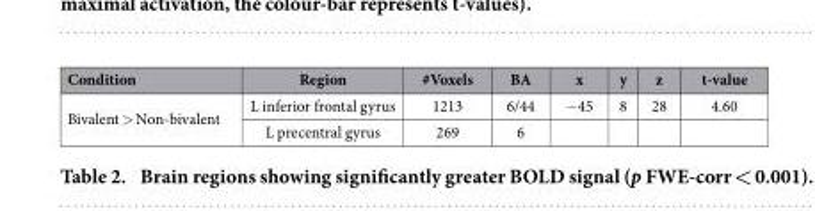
<table><thead><tr><td>Condition</td><td>Region</td><td>#Voxels</td><td>BA</td><td>x</td><td>y</td><td>z</td><td>t-value</td></tr></thead><tbody><tr><td rowspan="2">Bivalent &gt; Non-bivalent</td><td>L inferior frontal gyrus</td><td>1213</td><td>6/44</td><td>− 45</td><td>8</td><td>28</td><td>4.60</td></tr><tr><td>L precentral gyrus</td><td>269</td><td>6</td><td></td><td></td><td></td><td></td></tr></tbody></table>